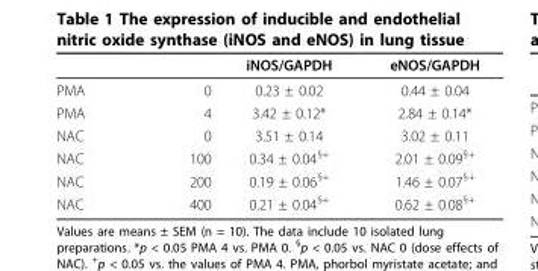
<table><thead><tr><td></td><td></td><td>iNOS/GAPDH</td><td>eNOS/GAPDH</td></tr></thead><tbody><tr><td>PMA</td><td>0</td><td>0.23 ± 0.02</td><td>0.44 ± 0.04</td></tr><tr><td>PMA</td><td>4</td><td>3.42 ± 0.12*</td><td>2.84 ± 0.14*</td></tr><tr><td>NAC</td><td>0</td><td>3.51 ± 0.14</td><td>3.02 ± 0.11</td></tr><tr><td>NAC</td><td>100</td><td>0.34 ± 0.04<sup>§+</sup></td><td>2.01 ± 0.09<sup>§+</sup></td></tr><tr><td>NAC</td><td>200</td><td>0.19 ± 0.06<sup>§+</sup></td><td>1.46 ± 0.07<sup>§+</sup></td></tr><tr><td>NAC</td><td>400</td><td>0.21 ± 0.04<sup>§+</sup></td><td>0.62 ± 0.08<sup>§+</sup></td></tr></tbody></table>